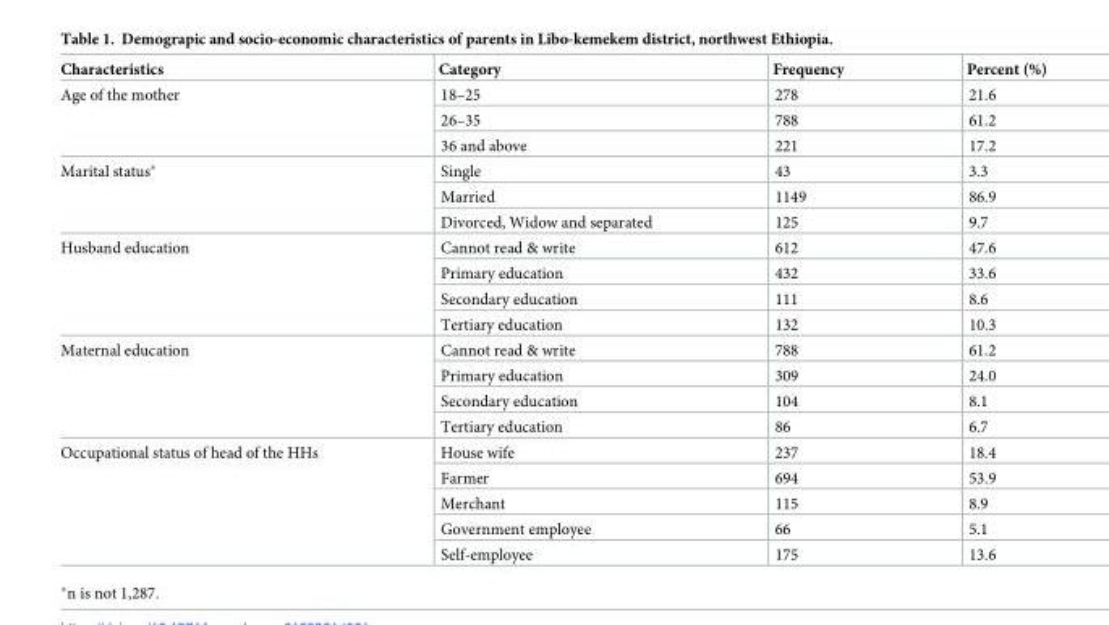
<table><thead><tr><td>Characteristics</td><td>Category</td><td>Frequency</td><td>Percent (%)</td></tr></thead><tbody><tr><td rowspan="3">Age of the mother</td><td>18–25</td><td>278</td><td>21.6</td></tr><tr><td>26–35</td><td>788</td><td>61.2</td></tr><tr><td>36 and above</td><td>221</td><td>17.2</td></tr><tr><td rowspan="3">Marital status*</td><td>Single</td><td>43</td><td>3.3</td></tr><tr><td>Married</td><td>1149</td><td>86.9</td></tr><tr><td>Divorced, Widow and separated</td><td>125</td><td>9.7</td></tr><tr><td rowspan="4">Husband education</td><td>Cannot read &amp; write</td><td>612</td><td>47.6</td></tr><tr><td>Primary education</td><td>432</td><td>33.6</td></tr><tr><td>Secondary education</td><td>111</td><td>8.6</td></tr><tr><td>Tertiary education</td><td>132</td><td>10.3</td></tr><tr><td rowspan="4">Maternal education</td><td>Cannot read &amp; write</td><td>788</td><td>61.2</td></tr><tr><td>Primary education</td><td>309</td><td>24.0</td></tr><tr><td>Secondary education</td><td>104</td><td>8.1</td></tr><tr><td>Tertiary education</td><td>86</td><td>6.7</td></tr><tr><td rowspan="5">Occupational status of head of the HHs</td><td>House wife</td><td>237</td><td>18.4</td></tr><tr><td>Farmer</td><td>694</td><td>53.9</td></tr><tr><td>Merchant</td><td>115</td><td>8.9</td></tr><tr><td>Government employee</td><td>66</td><td>5.1</td></tr><tr><td>Self-employee</td><td>175</td><td>13.6</td></tr></tbody></table>